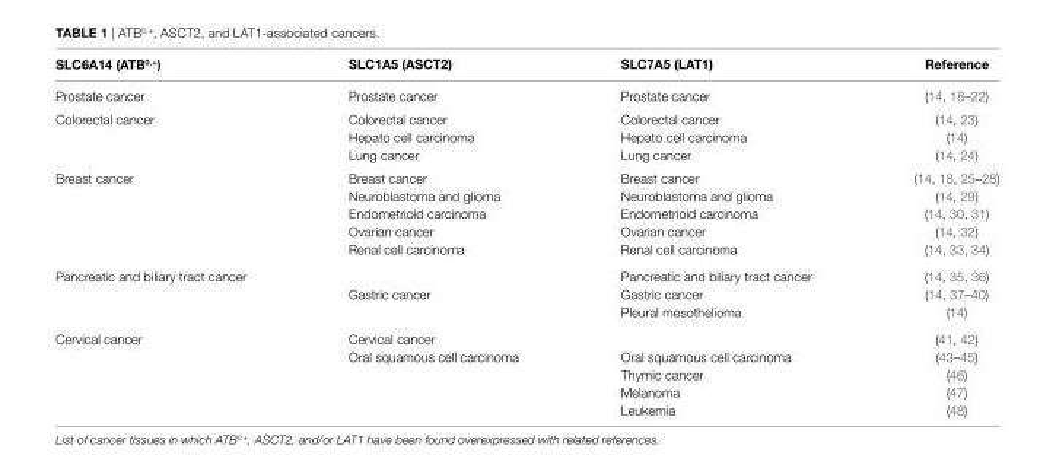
<table><thead><tr><td>SLC6A14 (ATb<sup>0,+</sup>)</td><td>SLC1A5 (ASCT2)</td><td>SLC7A5 (LAT1)</td><td>Reference</td></tr></thead><tbody><tr><td>Prostate cancer</td><td>Prostate cancer</td><td>Prostate cancer</td><td>(14, 18–22)</td></tr><tr><td rowspan="3">Colorectal cancer</td><td>Colorectal cancer</td><td>Colorectal cancer</td><td>(14, 23)</td></tr><tr><td>Hepato cell carcinoma</td><td>Hepato cell carcinoma</td><td>(14)</td></tr><tr><td>Lung cancer</td><td>Lung cancer</td><td>(14, 24)</td></tr><tr><td rowspan="5">Breast cancer</td><td>Breast cancer</td><td>Breast cancer</td><td>(14, 18, 25–28)</td></tr><tr><td>Neuroblastoma and glioma</td><td>Neuroblastoma and glioma</td><td>(14, 29)</td></tr><tr><td>Endometrioid carcinoma</td><td>Endometrioid carcinoma</td><td>(14, 30, 31)</td></tr><tr><td>Ovarian cancer</td><td>Ovarian cancer</td><td>(14, 32)</td></tr><tr><td>Renal cell carcinoma</td><td>Renal cell carcinoma</td><td>(14, 33, 34)</td></tr><tr><td rowspan="3">Pancreatic and biliary tract cancer</td><td></td><td>Pancreatic and biliary tract cancer</td><td>(14, 35, 36)</td></tr><tr><td>Gastric cancer</td><td>Gastric cancer</td><td>(14, 37–40)</td></tr><tr><td></td><td>Pleural mesothelioma</td><td>(14)</td></tr><tr><td rowspan="5">Cervical cancer</td><td>Cervical cancer</td><td></td><td>(41, 42)</td></tr><tr><td>Oral squamous cell carcinoma</td><td>Oral squamous cell carcinoma</td><td>(43–45)</td></tr><tr><td></td><td>Thymic cancer</td><td>(46)</td></tr><tr><td></td><td>Melanoma</td><td>(47)</td></tr><tr><td></td><td>Leukemia</td><td>(48)</td></tr></tbody></table>